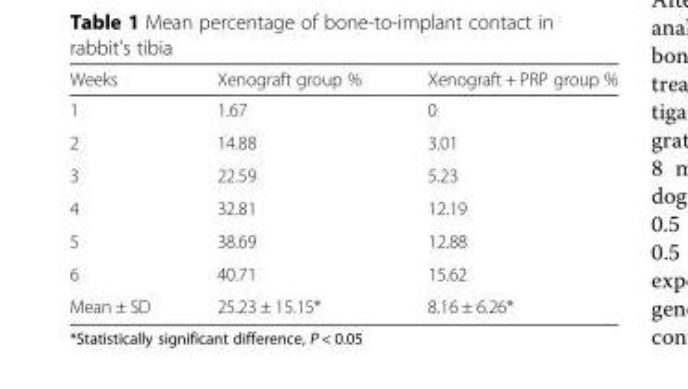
<table><thead><tr><td>Weeks</td><td>Xenograft group %</td><td>Xenograft + PRP group %</td></tr></thead><tbody><tr><td>1</td><td>1.67</td><td>0</td></tr><tr><td>2</td><td>14.88</td><td>3.01</td></tr><tr><td>3</td><td>22.59</td><td>5.23</td></tr><tr><td>4</td><td>32.81</td><td>12.19</td></tr><tr><td>5</td><td>38.69</td><td>12.88</td></tr><tr><td>6</td><td>40.71</td><td>15.62</td></tr><tr><td>Mean ± SD</td><td>25.23 ± 15.15*</td><td>8.16 ± 6.26*</td></tr></tbody></table>